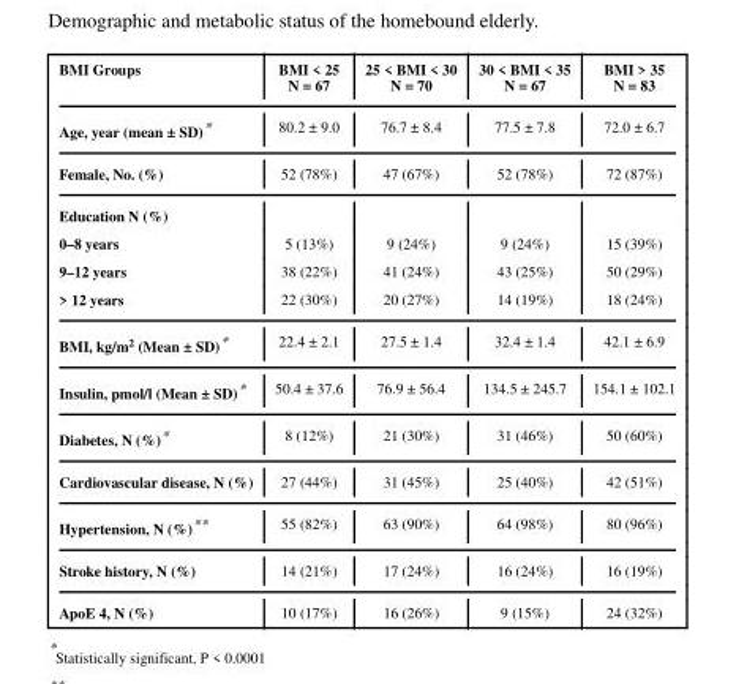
<table><thead><tr><td>BMI Groups</td><td>BMI &lt; 25 N = 67</td><td>25 &lt; BMI &lt; 30 N = 70</td><td>30 &lt; BMI &lt; 35 N = 67</td><td>BMI &gt; 35 N = 83</td></tr></thead><tbody><tr><td>Age, year (mean ± SD)*</td><td>80.2 ± 9.0</td><td>76.7 ± 8.4</td><td>77.5 ± 7.8</td><td>72.0 ± 6.7</td></tr><tr><td>Female, No. (%)</td><td>52 (78%)</td><td>47 (67%)</td><td>52 (78%)</td><td>72 (87%)</td></tr><tr><td colspan="5">Education N (%)</td></tr><tr><td>0–8 years</td><td>5 (13%)</td><td>9 (24%)</td><td>9 (24%)</td><td>15 (39%)</td></tr><tr><td>9–12 years</td><td>38 (22%)</td><td>41 (24%)</td><td>43 (25%)</td><td>50 (29%)</td></tr><tr><td>&gt; 12 years</td><td>22 (30%)</td><td>20 (27%)</td><td>14 (19%)</td><td>18 (24%)</td></tr><tr><td>BMI, kg/m<sup>2</sup> (Mean ± SD)*</td><td>22.4 ± 2.1</td><td>27.5 ± 1.4</td><td>32.4 ± 1.4</td><td>42.1 ± 6.9</td></tr><tr><td>Insulin, pmol/l (Mean ± SD)*</td><td>50.4 ± 37.6</td><td>76.9 ± 56.4</td><td>134.5 ± 245.7</td><td>154.1 ± 102.1</td></tr><tr><td>Diabetes, N (%)*</td><td>8 (12%)</td><td>21 (30%)</td><td>31 (46%)</td><td>50 (60%)</td></tr><tr><td>Cardiovascular disease, N (%)</td><td>27 (44%)</td><td>31 (45%)</td><td>25 (40%)</td><td>42 (51%)</td></tr><tr><td>Hypertension, N (%)**</td><td>55 (82%)</td><td>63 (90%)</td><td>64 (98%)</td><td>80 (96%)</td></tr><tr><td>Stroke history, N (%)</td><td>14 (21%)</td><td>17 (24%)</td><td>16 (24%)</td><td>16 (19%)</td></tr><tr><td>ApoE 4, N (%)</td><td>10 (17%)</td><td>16 (26%)</td><td>9 (15%)</td><td>24 (32%)</td></tr></tbody></table>